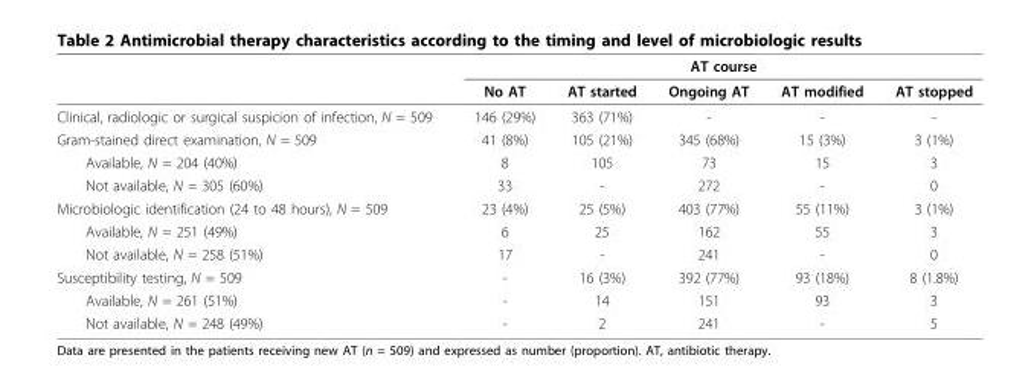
<table><thead><tr><td rowspan="2"></td><td colspan="5">AT course</td></tr><tr><td>No AT</td><td>AT started</td><td>Ongoing AT</td><td>AT modified</td><td>AT stopped</td></tr></thead><tbody><tr><td>Clinical, radiologic or surgical suspicion of infection, N = 509</td><td>146 (29%)</td><td>363 (71%)</td><td>-</td><td>-</td><td>-</td></tr><tr><td>Gram-stained direct examination, N = 509</td><td>41 (8%)</td><td>105 (21%)</td><td>345 (68%)</td><td>15 (3%)</td><td>3 (1%)</td></tr><tr><td>Available, N = 204 (40%)</td><td>8</td><td>105</td><td>73</td><td>15</td><td>3</td></tr><tr><td>Not available, N = 305 (60%)</td><td>33</td><td>-</td><td>272</td><td>-</td><td>0</td></tr><tr><td>Microbiologic identification (24 to 48 hours), N = 509</td><td>23 (4%)</td><td>25 (5%)</td><td>403 (77%)</td><td>55 (11%)</td><td>3 (1%)</td></tr><tr><td>Available, N = 251 (49%)</td><td>6</td><td>25</td><td>162</td><td>55</td><td>3</td></tr><tr><td>Not available, N = 258 (51%)</td><td>17</td><td>-</td><td>241</td><td>-</td><td>0</td></tr><tr><td>Susceptibility testing, N = 509</td><td>-</td><td>16 (3%)</td><td>392 (77%)</td><td>93 (18%)</td><td>8 (1.8%)</td></tr><tr><td>Available, N = 261 (51%)</td><td>-</td><td>14</td><td>151</td><td>93</td><td>3</td></tr><tr><td>Not available, N = 248 (49%)</td><td>-</td><td>2</td><td>241</td><td>-</td><td>5</td></tr></tbody></table>